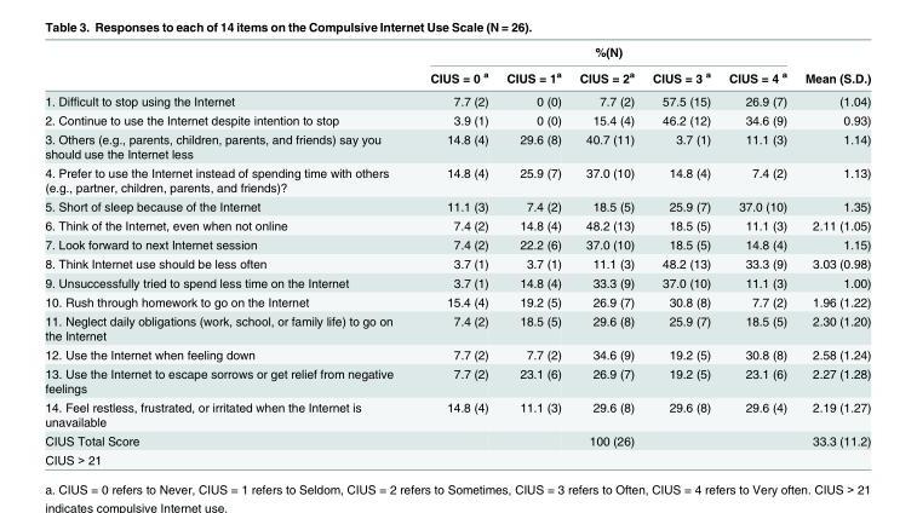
<table><thead><tr><td rowspan="2"></td><td colspan="5">%(N)</td><td rowspan="2">Mean (S.D.)</td></tr><tr><td>CIUS = 0 <sup>a</sup></td><td>CIUS = 1<sup>a</sup></td><td>CIUS = 2<sup>a</sup></td><td>CIUS = 3 <sup>a</sup></td><td>CIUS = 4 <sup>a</sup></td></tr></thead><tbody><tr><td>1. Difficult to stop using the Internet</td><td>7.7 (2)</td><td>0 (0)</td><td>7.7 (2)</td><td>57.5 (15)</td><td>26.9 (7)</td><td>(1.04)</td></tr><tr><td>2. Continue to use the Internet despite intention to stop</td><td>3.9 (1)</td><td>0 (0)</td><td>15.4 (4)</td><td>46.2 (12)</td><td>34.6 (9)</td><td>0.93)</td></tr><tr><td>3. Others (e.g., parents, children, parents, and friends) say you should use the Internet less</td><td>14.8 (4)</td><td>29.6 (8)</td><td>40.7 (11)</td><td>3.7 (1)</td><td>11.1 (3)</td><td>1.14)</td></tr><tr><td>4. Prefer to use the Internet instead of spending time with others (e.g., partner, children, parents, and friends)?</td><td>14.8 (4)</td><td>25.9 (7)</td><td>37.0 (10)</td><td>14.8 (4)</td><td>7.4 (2)</td><td>1.13)</td></tr><tr><td>5. Short of sleep because of the Internet</td><td>11.1 (3)</td><td>7.4 (2)</td><td>18.5 (5)</td><td>25.9 (7)</td><td>37.0 (10)</td><td>1.35)</td></tr><tr><td>6. Think of the Internet, even when not online</td><td>7.4 (2)</td><td>14.8 (4)</td><td>48.2 (13)</td><td>18.5 (5)</td><td>11.1 (3)</td><td>2.11 (1.05)</td></tr><tr><td>7. Look forward to next Internet session</td><td>7.4 (2)</td><td>22.2 (6)</td><td>37.0 (10)</td><td>18.5 (5)</td><td>14.8 (4)</td><td>1.15)</td></tr><tr><td>8. Think Internet use should be less often</td><td>3.7 (1)</td><td>3.7 (1)</td><td>11.1 (3)</td><td>48.2 (13)</td><td>33.3 (9)</td><td>3.03 (0.98)</td></tr><tr><td>9. Unsuccessfully tried to spend less time on the Internet</td><td>3.7 (1)</td><td>14.8 (4)</td><td>33.3 (9)</td><td>37.0 (10)</td><td>11.1 (3)</td><td>1.00)</td></tr><tr><td>10. Rush through homework to go on the Internet</td><td>15.4 (4)</td><td>19.2 (5)</td><td>26.9 (7)</td><td>30.8 (8)</td><td>7.7 (2)</td><td>1.96 (1.22)</td></tr><tr><td>11. Neglect daily obligations (work, school, or family life) to go on the Internet</td><td>7.4 (2)</td><td>18.5 (5)</td><td>29.6 (8)</td><td>25.9 (7)</td><td>18.5 (5)</td><td>2.30 (1.20)</td></tr><tr><td>12. Use the Internet when feeling down</td><td>7.7 (2)</td><td>7.7 (2)</td><td>34.6 (9)</td><td>19.2 (5)</td><td>30.8 (8)</td><td>2.58 (1.24)</td></tr><tr><td>13. Use the Internet to escape sorrows or get relief from negative feelings</td><td>7.7 (2)</td><td>23.1 (6)</td><td>26.9 (7)</td><td>19.2 (5)</td><td>23.1 (6)</td><td>2.27 (1.28)</td></tr><tr><td>14. Feel restless, frustrated, or irritated when the Internet is unavailable</td><td>14.8 (4)</td><td>11.1 (3)</td><td>29.6 (8)</td><td>29.6 (8)</td><td>29.6 (4)</td><td>2.19 (1.27)</td></tr><tr><td>CIUS Total Score</td><td></td><td></td><td>100 (26)</td><td></td><td></td><td>33.3 (11.2)</td></tr><tr><td>CIUS &gt; 21</td><td></td><td></td><td></td><td></td><td></td><td></td></tr></tbody></table>